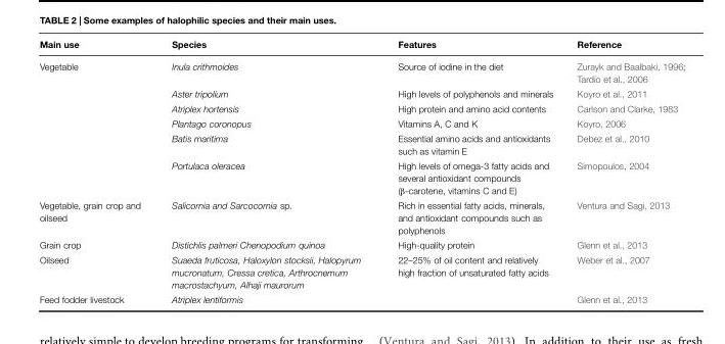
<table><thead><tr><td>Main use</td><td>Species</td><td>Features</td><td>Reference</td></tr></thead><tbody><tr><td rowspan="6">Vegetable</td><td>Inula crithmoides</td><td>Source of iodine in the diet</td><td>Zurayk and Baalbaki, 1996; Tardío et al., 2006</td></tr><tr><td>Aster tripolium</td><td>High levels of polyphenols and minerals</td><td>Koyro et al., 2011</td></tr><tr><td>Atriplex hortensis</td><td>High protein and amino acid contents</td><td>Carlson and Clarke, 1983</td></tr><tr><td>Plantago coronopus</td><td>Vitamins A, C and K</td><td>Koyro, 2006</td></tr><tr><td>Batis maritima</td><td>Essential amino acids and antioxidants such as vitamin E</td><td>Debez et al., 2010</td></tr><tr><td>Portulaca oleracea</td><td>High levels of omega-3 fatty acids and several antioxidant compounds (β-carotene, vitamins C and E)</td><td>Simopoulos, 2004</td></tr><tr><td>Vegetable, grain crop and oilseed</td><td>Salicornia and Sarcocornia sp.</td><td>Rich in essential fatty acids, minerals, and antioxidant compounds such as polyphenols</td><td>Ventura and Sagi, 2013</td></tr><tr><td>Grain crop</td><td>Distichlis palmeri Chenopodium quinoa</td><td>High-quality protein</td><td>Glenn et al., 2013</td></tr><tr><td>Oilseed</td><td>Suaeda fruticosa, Haloxylon stocksii, Halopyrum mucronatum, Cressa cretica, Arthrocnemum macrostachyum, Alhaji maurorum</td><td>22–25% of oil content and relatively high fraction of unsaturated fatty acids</td><td>Weber et al., 2007</td></tr><tr><td>Feed fodder livestock</td><td>Atriplex lentiformis</td><td></td><td>Glenn et al., 2013</td></tr></tbody></table>